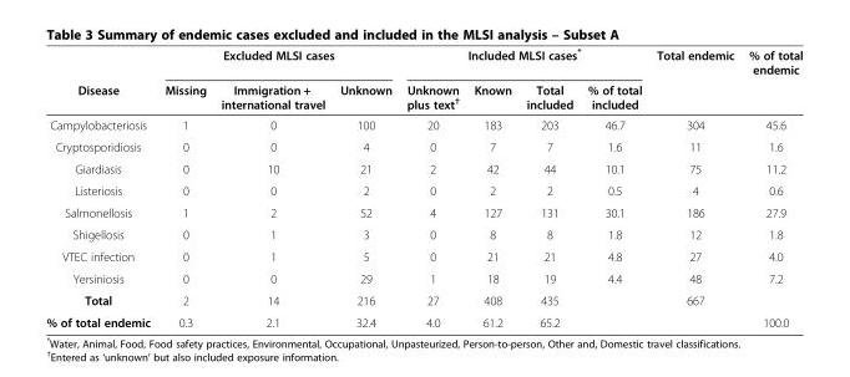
<table><thead><tr><td rowspan="2">Disease</td><td colspan="3">Excluded MLSI cases</td><td colspan="4">Included MLSI cases*</td><td rowspan="2">Total endemic</td><td rowspan="2">% of total endemic</td></tr><tr><td>Missing</td><td>Immigration + international travel</td><td>Unknown</td><td>Unknown plus text<sup>†</sup></td><td>Known</td><td>Total included</td><td>% of total included</td></tr></thead><tbody><tr><td>Campylobacteriosis</td><td>1</td><td>0</td><td>100</td><td>20</td><td>183</td><td>203</td><td>46.7</td><td>304</td><td>45.6</td></tr><tr><td>Cryptosporidiosis</td><td>0</td><td>0</td><td>4</td><td>0</td><td>7</td><td>7</td><td>1.6</td><td>11</td><td>1.6</td></tr><tr><td>Giardiasis</td><td>0</td><td>10</td><td>21</td><td>2</td><td>42</td><td>44</td><td>10.1</td><td>75</td><td>11.2</td></tr><tr><td>Listeriosis</td><td>0</td><td>0</td><td>2</td><td>0</td><td>2</td><td>2</td><td>0.5</td><td>4</td><td>0.6</td></tr><tr><td>Salmonellosis</td><td>1</td><td>2</td><td>52</td><td>4</td><td>127</td><td>131</td><td>30.1</td><td>186</td><td>27.9</td></tr><tr><td>Shigellosis</td><td>0</td><td>1</td><td>3</td><td>0</td><td>8</td><td>8</td><td>1.8</td><td>12</td><td>1.8</td></tr><tr><td>VTEC infection</td><td>0</td><td>1</td><td>5</td><td>0</td><td>21</td><td>21</td><td>4.8</td><td>27</td><td>4.0</td></tr><tr><td>Yersiniosis</td><td>0</td><td>0</td><td>29</td><td>1</td><td>18</td><td>19</td><td>4.4</td><td>48</td><td>7.2</td></tr><tr><td>Total</td><td>2</td><td>14</td><td>216</td><td>27</td><td>408</td><td>435</td><td></td><td>667</td><td></td></tr><tr><td>% of total endemic</td><td>0.3</td><td>2.1</td><td>32.4</td><td>4.0</td><td>61.2</td><td>65.2</td><td></td><td></td><td>100.0</td></tr></tbody></table>